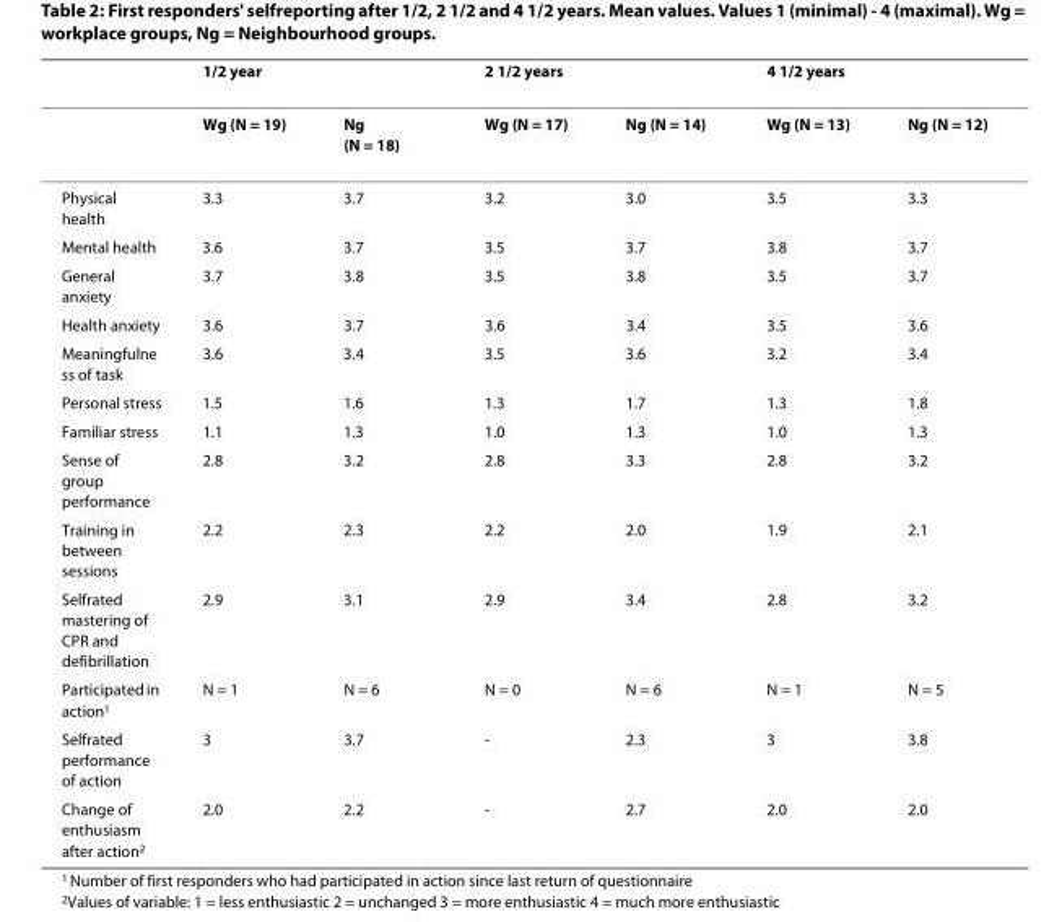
<table><thead><tr><td rowspan="2"></td><td colspan="2">1/2 year</td><td colspan="2">2 1/2 years</td><td colspan="2">4 1/2 years</td></tr><tr><td>Wg (N = 19)</td><td>Ng (N = 18)</td><td>Wg (N = 17)</td><td>Ng (N = 14)</td><td>Wg (N = 13)</td><td>Ng (N = 12)</td></tr></thead><tbody><tr><td>Physical health</td><td>3.3</td><td>3.7</td><td>3.2</td><td>3.0</td><td>3.5</td><td>3.3</td></tr><tr><td>Mental health</td><td>3.6</td><td>3.7</td><td>3.5</td><td>3.7</td><td>3.8</td><td>3.7</td></tr><tr><td>General anxiety</td><td>3.7</td><td>3.8</td><td>3.5</td><td>3.8</td><td>3.5</td><td>3.7</td></tr><tr><td>Health anxiety</td><td>3.6</td><td>3.7</td><td>3.6</td><td>3.4</td><td>3.5</td><td>3.6</td></tr><tr><td>Meaningfulne ss of task</td><td>3.6</td><td>3.4</td><td>3.5</td><td>3.6</td><td>3.2</td><td>3.4</td></tr><tr><td>Personal stress</td><td>1.5</td><td>1.6</td><td>1.3</td><td>1.7</td><td>1.3</td><td>1.8</td></tr><tr><td>Familiar stress</td><td>1.1</td><td>1.3</td><td>1.0</td><td>1.3</td><td>1.0</td><td>1.3</td></tr><tr><td>Sense of group performance</td><td>2.8</td><td>3.2</td><td>2.8</td><td>3.3</td><td>2.8</td><td>3.2</td></tr><tr><td>Training in between sessions</td><td>2.2</td><td>2.3</td><td>2.2</td><td>2.0</td><td>1.9</td><td>2.1</td></tr><tr><td>Selfrated mastering of CPR and defibrillation</td><td>2.9</td><td>3.1</td><td>2.9</td><td>3.4</td><td>2.8</td><td>3.2</td></tr><tr><td>Participated in action<sup>1</sup></td><td>N = 1</td><td>N = 6</td><td>N = 0</td><td>N = 6</td><td>N = 1</td><td>N = 5</td></tr><tr><td>Selfrated performance of action</td><td>3</td><td>3.7</td><td>-</td><td>2.3</td><td>3</td><td>3.8</td></tr><tr><td>Change of enthusiasm after action<sup>2</sup></td><td>2.0</td><td>2.2</td><td>-</td><td>2.7</td><td>2.0</td><td>2.0</td></tr></tbody></table>